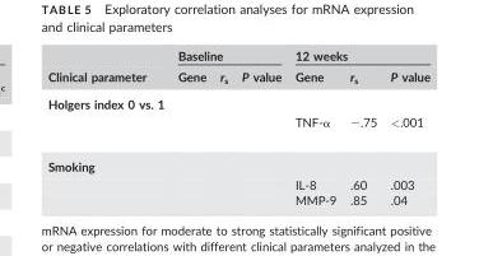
<table><thead><tr><td rowspan="2">Clinical parameter</td><td colspan="3">Baseline</td><td colspan="3">12 weeks</td></tr><tr><td>Gene</td><td>r<sub>s</sub></td><td>P value</td><td>Gene</td><td>r<sub>s</sub></td><td>P value</td></tr></thead><tbody><tr><td colspan="7">Holgers index 0 vs. 1</td></tr><tr><td></td><td></td><td></td><td></td><td>TNF-α</td><td>−.75</td><td>&lt;.001</td></tr><tr><td colspan="7">Smoking</td></tr><tr><td></td><td></td><td></td><td></td><td>IL-8</td><td>.60</td><td>.003</td></tr><tr><td></td><td></td><td></td><td></td><td>MMP-9</td><td>.85</td><td>.04</td></tr></tbody></table>